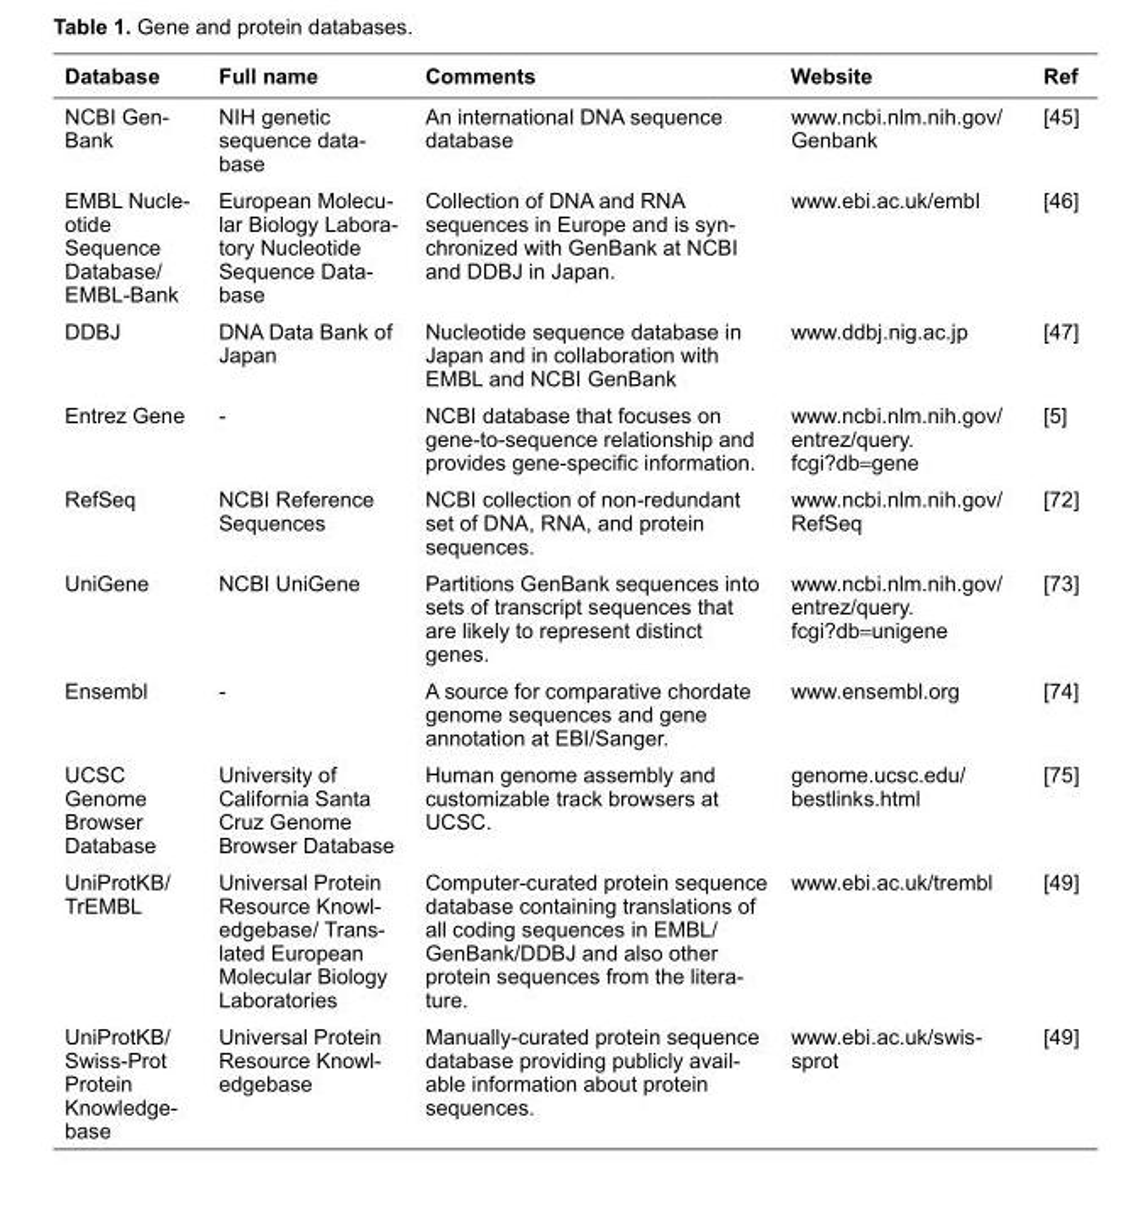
<table><thead><tr><td>Database</td><td>Full name</td><td>Comments</td><td>Website</td><td>Ref</td></tr></thead><tbody><tr><td>NCBI Gen- Bank</td><td>NIH genetic sequence data- base</td><td>An international DNA sequence database</td><td>www.ncbi.nlm.nih.gov/ Genbank</td><td>[45]</td></tr><tr><td>EMBL Nucle- otide Sequence Database/ EMBL-Bank</td><td>European Molecu- lar Biology Labora- tory Nucleotide Sequence Data- base</td><td>Collection of DNA and RNA sequences in Europe and is syn- chronized with GenBank at NCBI and DDBJ in Japan.</td><td>www.ebi.ac.uk/embl</td><td>[46]</td></tr><tr><td>DDBJ</td><td>DNA Data Bank of Japan</td><td>Nucleotide sequence database in Japan and in collaboration with EMBL and NCBI GenBank</td><td>www.ddbj.nig.ac.jp</td><td>[47]</td></tr><tr><td>Entrez Gene</td><td>-</td><td>NCBI database that focuses on gene-to-sequence relationship and provides gene-specifi c information.</td><td>www.ncbi.nlm.nih.gov/ entrez/query. fcgi?db=gene</td><td>[5]</td></tr><tr><td>RefSeq</td><td>NCBI Reference Sequences</td><td>NCBI collection of non-redundant set of DNA, RNA, and protein sequences.</td><td>www.ncbi.nlm.nih.gov/ RefSeq</td><td>[72]</td></tr><tr><td>UniGene</td><td>NCBI UniGene</td><td>Partitions GenBank sequences into sets of transcript sequences that are likely to represent distinct genes.</td><td>www.ncbi.nlm.nih.gov/ entrez/query. fcgi?db=unigene</td><td>[73]</td></tr><tr><td>Ensembl</td><td>-</td><td>A source for comparative chordate genome sequences and gene annotation at EBI/Sanger.</td><td>www.ensembl.org</td><td>[74]</td></tr><tr><td>UCSC Genome Browser Database</td><td>University of California Santa Cruz Genome Browser Database</td><td>Human genome assembly and customizable track browsers at UCSC.</td><td>genome.ucsc.edu/ bestlinks.html</td><td>[75]</td></tr><tr><td>UniProtKB/ TrEMBL</td><td>Universal Protein Resource Knowl- edgebase/ Trans- lated European Molecular Biology Laboratories</td><td>Computer-curated protein sequence database containing translations of all coding sequences in EMBL/ GenBank/DDBJ and also other protein sequences from the litera- ture.</td><td>www.ebi.ac.uk/trembl</td><td>[49]</td></tr><tr><td>UniProtKB/ Swiss-Prot Protein Knowledge- base</td><td>Universal Protein Resource Knowl- edgebase</td><td>Manually-curated protein sequence database providing publicly avail- able information about protein sequences.</td><td>www.ebi.ac.uk/swis- sprot</td><td>[49]</td></tr></tbody></table>